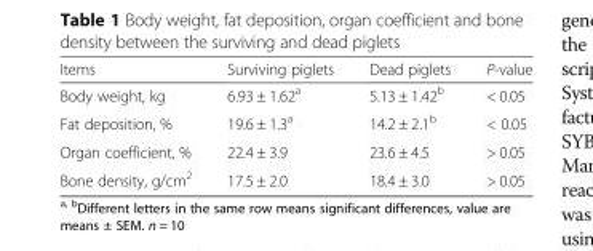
<table><thead><tr><td>Items</td><td>Surviving piglets</td><td>Dead piglets</td><td>P-value</td></tr></thead><tbody><tr><td>Body weight, kg</td><td>6.93 ± 1.62<sup>a</sup></td><td>5.13 ± 1.42<sup>b</sup></td><td>&lt; 0.05</td></tr><tr><td>Fat deposition, %</td><td>19.6 ± 1.3<sup>a</sup></td><td>14.2 ± 2.1<sup>b</sup></td><td>&lt; 0.05</td></tr><tr><td>Organ coefficient, %</td><td>22.4 ± 3.9</td><td>23.6 ± 4.5</td><td>&gt; 0.05</td></tr><tr><td>Bone density, g/cm<sup>2</sup></td><td>17.5 ± 2.0</td><td>18.4 ± 3.0</td><td>&gt; 0.05</td></tr></tbody></table>